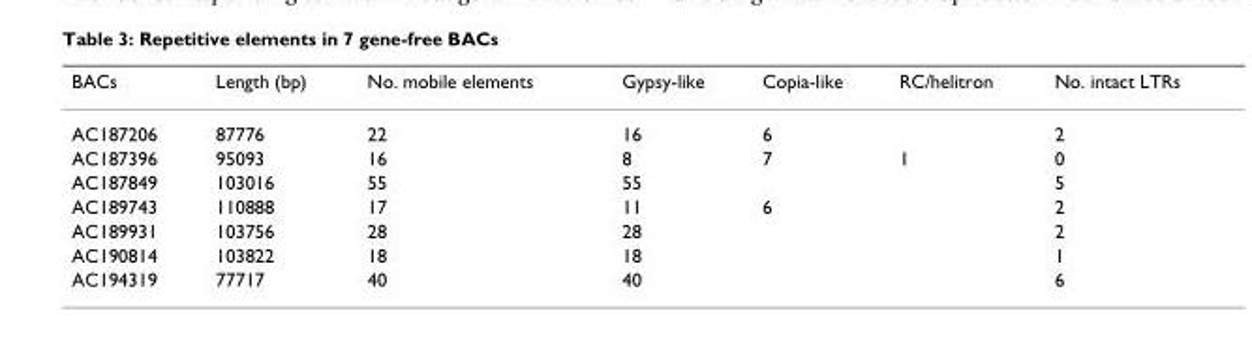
<table><thead><tr><td>BACs</td><td>Length (bp)</td><td>No. mobile elements</td><td>Gypsy-like</td><td>Copia-like</td><td>RC/helitron</td><td>No. intact LTRs</td></tr></thead><tbody><tr><td>AC187206</td><td>87776</td><td>22</td><td>16</td><td>6</td><td></td><td>2</td></tr><tr><td>AC187396</td><td>95093</td><td>16</td><td>8</td><td>7</td><td>1</td><td>0</td></tr><tr><td>AC187849</td><td>103016</td><td>55</td><td>55</td><td></td><td></td><td>5</td></tr><tr><td>AC189743</td><td>110888</td><td>17</td><td>11</td><td>6</td><td></td><td>2</td></tr><tr><td>AC189931</td><td>103756</td><td>28</td><td>28</td><td></td><td></td><td>2</td></tr><tr><td>AC190814</td><td>103822</td><td>18</td><td>18</td><td></td><td></td><td>1</td></tr><tr><td>AC194319</td><td>77717</td><td>40</td><td>40</td><td></td><td></td><td>6</td></tr></tbody></table>